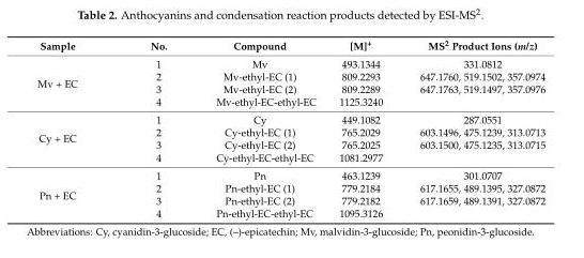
<table><thead><tr><td>Sample</td><td>No.</td><td>Compound</td><td>[M]<sup>+</sup></td><td>MS<sup>2</sup> Product Ions (m/z)</td></tr></thead><tbody><tr><td rowspan="4">Mv + EC</td><td>1</td><td>Mv</td><td>493.1344</td><td>331.0812</td></tr><tr><td>2</td><td>Mv-ethyl-EC (1)</td><td>809.2293</td><td>647.1760, 519.1502, 357.0974</td></tr><tr><td>3</td><td>Mv-ethyl-EC (2)</td><td>809.2289</td><td>647.1763, 519.1497, 357.0976</td></tr><tr><td>4</td><td>Mv-ethyl-EC-ethyl-EC</td><td>1125.3240</td><td></td></tr><tr><td rowspan="4">Cy + EC</td><td>1</td><td>Cy</td><td>449.1082</td><td>287.0551</td></tr><tr><td>2</td><td>Cy-ethyl-EC (1)</td><td>765.2029</td><td>603.1496, 475.1239, 313.0713</td></tr><tr><td>3</td><td>Cy-ethyl-EC (2)</td><td>765.2025</td><td>603.1500, 475.1235, 313.0715</td></tr><tr><td>4</td><td>Cy-ethyl-EC-ethyl-EC</td><td>1081.2977</td><td></td></tr><tr><td rowspan="4">Pn + EC</td><td>1</td><td>Pn</td><td>463.1239</td><td>301.0707</td></tr><tr><td>2</td><td>Pn-ethyl-EC (1)</td><td>779.2184</td><td>617.1655, 489.1395, 327.0872</td></tr><tr><td>3</td><td>Pn-ethyl-EC (2)</td><td>779.2182</td><td>617.1659, 489.1391, 327.0872</td></tr><tr><td>4</td><td>Pn-ethyl-EC-ethyl-EC</td><td>1095.3126</td><td></td></tr></tbody></table>